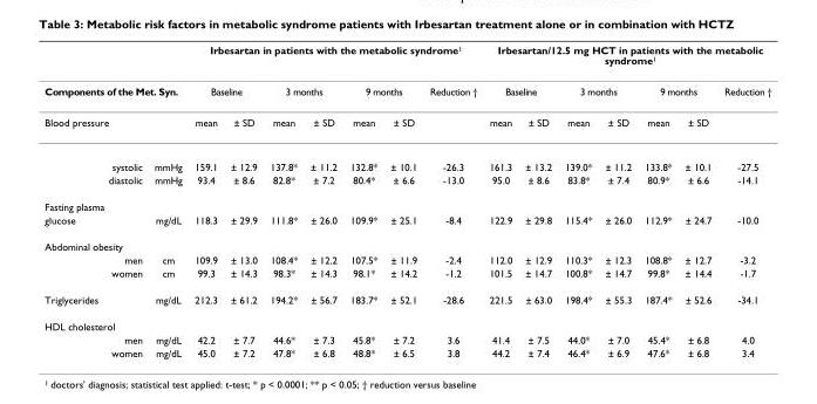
<table><thead><tr><td></td><td></td><td colspan="7">Irbesartan in patients with the metabolic syndrome<sup>1</sup></td><td colspan="7">Irbesartan/12.5 mg HCT in patients with the metabolic syndrome<sup>1</sup></td></tr><tr><td rowspan="2" colspan="2">Components of the Met. Syn. Blood pressure</td><td colspan="2">Baseline</td><td colspan="2">3 months</td><td colspan="2">9 months</td><td rowspan="2">Reduction †</td><td colspan="2">Baseline</td><td colspan="2">3 months</td><td colspan="2">9 months</td><td rowspan="2">Reduction †</td></tr><tr><td>mean</td><td>± SD</td><td>mean</td><td>± SD</td><td>mean</td><td>± SD</td><td>mean</td><td>± SD</td><td>mean</td><td>± SD</td><td>mean</td><td>± SD</td></tr></thead><tbody><tr><td>systolic</td><td>mmHg</td><td>159.1</td><td>± 12.9</td><td>137.8*</td><td>± 11.2</td><td>132.8*</td><td>± 10.1</td><td>-26.3</td><td>161.3</td><td>± 13.2</td><td>139.0*</td><td>± 11.2</td><td>133.8*</td><td>± 10.1</td><td>-27.5</td></tr><tr><td>diastolic</td><td>mmHg</td><td>93.4</td><td>± 8.6</td><td>82.8*</td><td>± 7.2</td><td>80.4*</td><td>± 6.6</td><td>-13.0</td><td>95.0</td><td>± 8.6</td><td>83.8*</td><td>± 7.4</td><td>80.9*</td><td>± 6.6</td><td>-14.1</td></tr><tr><td colspan="16">Fasting plasma</td></tr><tr><td>glucose</td><td>mg/dL</td><td>118.3</td><td>± 29.9</td><td>111.8*</td><td>± 26.0</td><td>109.9*</td><td>± 25.1</td><td>-8.4</td><td>122.9</td><td>± 29.8</td><td>115.4*</td><td>± 26.0</td><td>112.9*</td><td>± 24.7</td><td>-10.0</td></tr><tr><td colspan="16">Abdominal obesity</td></tr><tr><td>men</td><td>cm</td><td>109.9</td><td>± 13.0</td><td>108.4*</td><td>± 12.2</td><td>107.5*</td><td>± 11.9</td><td>-2.4</td><td>112.0</td><td>± 12.9</td><td>110.3*</td><td>± 12.3</td><td>108.8*</td><td>± 12.7</td><td>-3.2</td></tr><tr><td>women</td><td>cm</td><td>99.3</td><td>± 14.3</td><td>98.3*</td><td>± 14.3</td><td>98.1*</td><td>± 14.2</td><td>-1.2</td><td>101.5</td><td>± 14.7</td><td>100.8*</td><td>± 14.7</td><td>99.8*</td><td>± 14.4</td><td>-1.7</td></tr><tr><td>Triglycerides</td><td>mg/dL</td><td>212.3</td><td>± 61.2</td><td>194.2*</td><td>± 56.7</td><td>183.7*</td><td>± 52.1</td><td>-28.6</td><td>221.5</td><td>± 63.0</td><td>198.4*</td><td>± 55.3</td><td>187.4*</td><td>± 52.6</td><td>-34.1</td></tr><tr><td colspan="16">HDL cholesterol</td></tr><tr><td>men</td><td>mg/dL</td><td>42.2</td><td>± 7.7</td><td>44.6*</td><td>± 7.3</td><td>45.8*</td><td>± 7.2</td><td>3.6</td><td>41.4</td><td>± 7.5</td><td>44.0*</td><td>± 7.0</td><td>45.4*</td><td>± 6.8</td><td>4.0</td></tr><tr><td>women</td><td>mg/dL</td><td>45.0</td><td>± 7.2</td><td>47.8*</td><td>± 6.8</td><td>48.8*</td><td>± 6.5</td><td>3.8</td><td>44.2</td><td>± 7.4</td><td>46.4*</td><td>± 6.9</td><td>47.6*</td><td>± 6.8</td><td>3.4</td></tr></tbody></table>